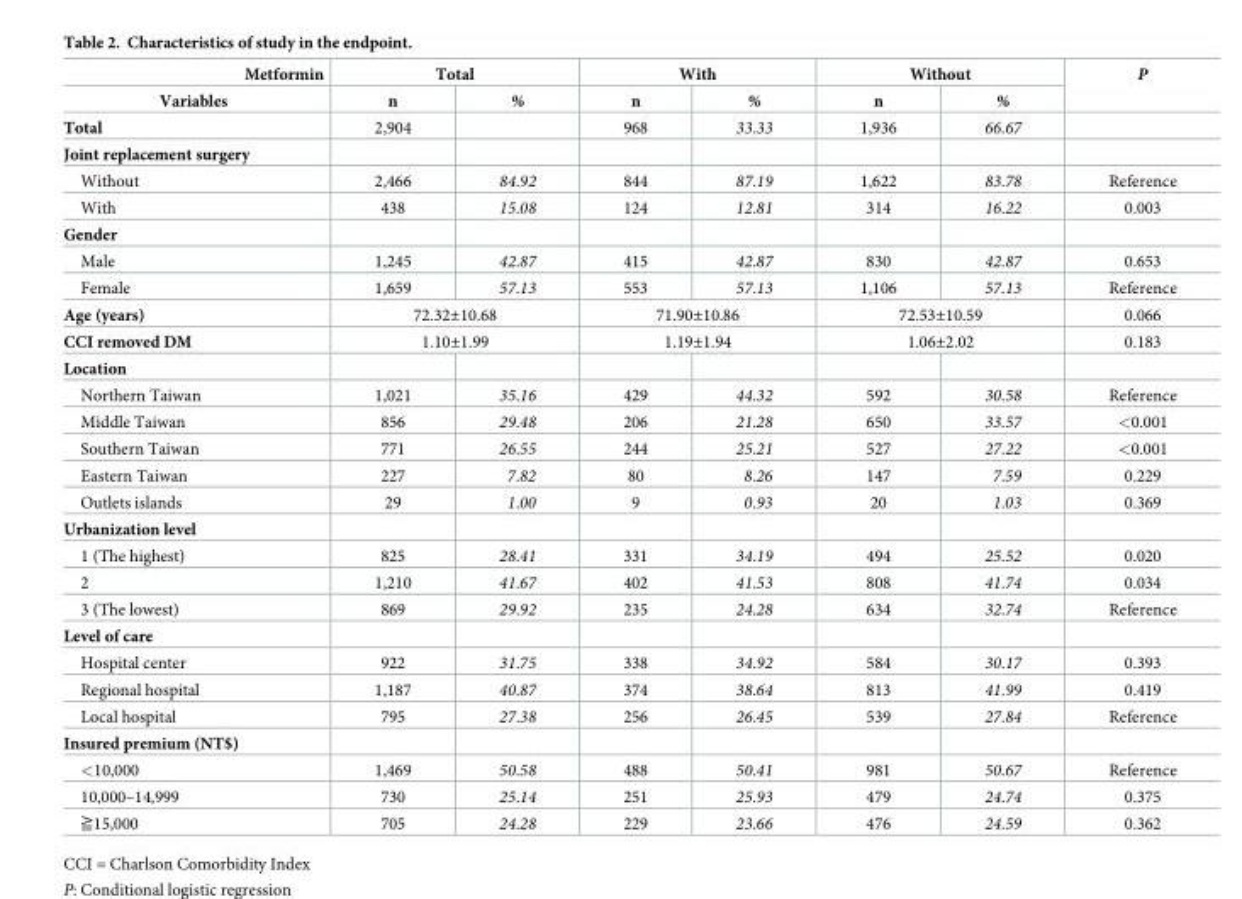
<table><thead><tr><td rowspan="2">Metformin Variables</td><td colspan="2">Total</td><td colspan="2">With</td><td colspan="2">Without</td><td rowspan="2">P</td></tr><tr><td>n</td><td>%</td><td>n</td><td>%</td><td>n</td><td>%</td></tr></thead><tbody><tr><td>Total</td><td>2,904</td><td></td><td>968</td><td>33.33</td><td>1,936</td><td>66.67</td><td></td></tr><tr><td colspan="8">Joint replacement surgery</td></tr><tr><td>Without</td><td>2,466</td><td>84.92</td><td>844</td><td>87.19</td><td>1,622</td><td>83.78</td><td>Reference</td></tr><tr><td>With</td><td>438</td><td>15.08</td><td>124</td><td>12.81</td><td>314</td><td>16.22</td><td>0.003</td></tr><tr><td colspan="8">Gender</td></tr><tr><td>Male</td><td>1,245</td><td>42.87</td><td>415</td><td>42.87</td><td>830</td><td>42.87</td><td>0.653</td></tr><tr><td>Female</td><td>1,659</td><td>57.13</td><td>553</td><td>57.13</td><td>1,106</td><td>57.13</td><td>Reference</td></tr><tr><td>Age (years)</td><td colspan="2">72.32±10.68</td><td colspan="2">71.90±10.86</td><td colspan="2">72.53±10.59</td><td>0.066</td></tr><tr><td>CCI removed DM</td><td colspan="2">1.10±1.99</td><td colspan="2">1.19±1.94</td><td colspan="2">1.06±2.02</td><td>0.183</td></tr><tr><td colspan="8">Location</td></tr><tr><td>Northern Taiwan</td><td>1,021</td><td>35.16</td><td>429</td><td>44.32</td><td>592</td><td>30.58</td><td>Reference</td></tr><tr><td>Middle Taiwan</td><td>856</td><td>29.48</td><td>206</td><td>21.28</td><td>650</td><td>33.57</td><td>&lt;0.001</td></tr><tr><td>Southern Taiwan</td><td>771</td><td>26.55</td><td>244</td><td>25.21</td><td>527</td><td>27.22</td><td>&lt;0.001</td></tr><tr><td>Eastern Taiwan</td><td>227</td><td>7.82</td><td>80</td><td>8.26</td><td>147</td><td>7.59</td><td>0.229</td></tr><tr><td>Outlets islands</td><td>29</td><td>1.00</td><td>9</td><td>0.93</td><td>20</td><td>1.03</td><td>0.369</td></tr><tr><td colspan="8">Urbanization level</td></tr><tr><td>1 (The highest)</td><td>825</td><td>28.41</td><td>331</td><td>34.19</td><td>494</td><td>25.52</td><td>0.020</td></tr><tr><td>2</td><td>1,210</td><td>41.67</td><td>402</td><td>41.53</td><td>808</td><td>41.74</td><td>0.034</td></tr><tr><td>3 (The lowest)</td><td>869</td><td>29.92</td><td>235</td><td>24.28</td><td>634</td><td>32.74</td><td>Reference</td></tr><tr><td colspan="8">Level of care</td></tr><tr><td>Hospital center</td><td>922</td><td>31.75</td><td>338</td><td>34.92</td><td>584</td><td>30.17</td><td>0.393</td></tr><tr><td>Regional hospital</td><td>1,187</td><td>40.87</td><td>374</td><td>38.64</td><td>813</td><td>41.99</td><td>0.419</td></tr><tr><td>Local hospital</td><td>795</td><td>27.38</td><td>256</td><td>26.45</td><td>539</td><td>27.84</td><td>Reference</td></tr><tr><td colspan="8">Insured premium (NT$)</td></tr><tr><td>&lt;10,000</td><td>1,469</td><td>50.58</td><td>488</td><td>50.41</td><td>981</td><td>50.67</td><td>Reference</td></tr><tr><td>10,000–14,999</td><td>730</td><td>25.14</td><td>251</td><td>25.93</td><td>479</td><td>24.74</td><td>0.375</td></tr><tr><td>≧15,000</td><td>705</td><td>24.28</td><td>229</td><td>23.66</td><td>476</td><td>24.59</td><td>0.362</td></tr></tbody></table>